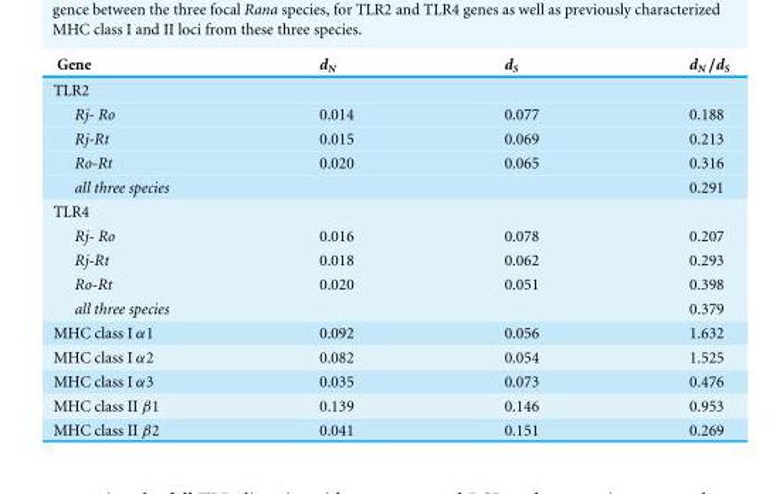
<table><thead><tr><td>Gene</td><td>d<sub>N</sub></td><td>d<sub>S</sub></td><td>dN/dS</td></tr></thead><tbody><tr><td colspan="4">TLR2</td></tr><tr><td>Rj- Ro</td><td>0.014</td><td>0.077</td><td>0.188</td></tr><tr><td>Rj-Rt</td><td>0.015</td><td>0.069</td><td>0.213</td></tr><tr><td>Ro-Rt</td><td>0.020</td><td>0.065</td><td>0.316</td></tr><tr><td>all three species</td><td></td><td></td><td>0.291</td></tr><tr><td colspan="4">TLR4</td></tr><tr><td>Rj- Ro</td><td>0.016</td><td>0.078</td><td>0.207</td></tr><tr><td>Rj-Rt</td><td>0.018</td><td>0.062</td><td>0.293</td></tr><tr><td>Ro-Rt</td><td>0.020</td><td>0.051</td><td>0.398</td></tr><tr><td>all three species</td><td></td><td></td><td>0.379</td></tr><tr><td>MHC class I α1</td><td>0.092</td><td>0.056</td><td>1.632</td></tr><tr><td>MHC class I α2</td><td>0.082</td><td>0.054</td><td>1.525</td></tr><tr><td>MHC class I α3</td><td>0.035</td><td>0.073</td><td>0.476</td></tr><tr><td>MHC class II β1</td><td>0.139</td><td>0.146</td><td>0.953</td></tr><tr><td>MHC class II β2</td><td>0.041</td><td>0.151</td><td>0.269</td></tr></tbody></table>